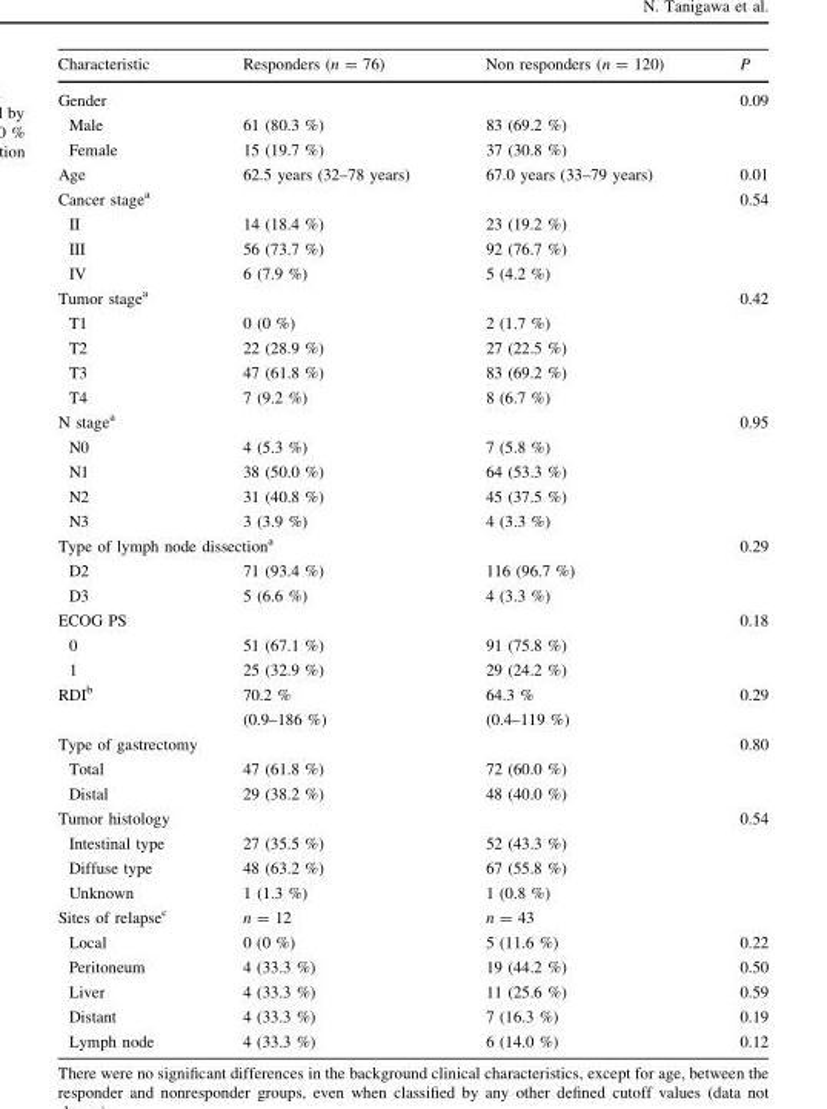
<table><thead><tr><td>Characteristic</td><td>Responders (n = 76)</td><td>Non responders (n = 120)</td><td>P</td></tr></thead><tbody><tr><td colspan="3">Gender</td><td>0.09</td></tr><tr><td>Male</td><td>61 (80.3 %)</td><td>83 (69.2 %)</td><td></td></tr><tr><td>Female</td><td>15 (19.7 %)</td><td>37 (30.8 %)</td><td></td></tr><tr><td>Age</td><td>62.5 years (32–78 years)</td><td>67.0 years (33–79 years)</td><td>0.01</td></tr><tr><td colspan="3">Cancer stage<sup>a</sup></td><td>0.54</td></tr><tr><td>II</td><td>14 (18.4 %)</td><td>23 (19.2 %)</td><td></td></tr><tr><td>III</td><td>56 (73.7 %)</td><td>92 (76.7 %)</td><td></td></tr><tr><td>IV</td><td>6 (7.9 %)</td><td>5 (4.2 %)</td><td></td></tr><tr><td colspan="3">Tumor stage<sup>a</sup></td><td>0.42</td></tr><tr><td>T1</td><td>0 (0 %)</td><td>2 (1.7 %)</td><td></td></tr><tr><td>T2</td><td>22 (28.9 %)</td><td>27 (22.5 %)</td><td></td></tr><tr><td>T3</td><td>47 (61.8 %)</td><td>83 (69.2 %)</td><td></td></tr><tr><td>T4</td><td>7 (9.2 %)</td><td>8 (6.7 %)</td><td></td></tr><tr><td colspan="3">N stage<sup>a</sup></td><td>0.95</td></tr><tr><td>N0</td><td>4 (5.3 %)</td><td>7 (5.8 %)</td><td></td></tr><tr><td>N1</td><td>38 (50.0 %)</td><td>64 (53.3 %)</td><td></td></tr><tr><td>N2</td><td>31 (40.8 %)</td><td>45 (37.5 %)</td><td></td></tr><tr><td>N3</td><td>3 (3.9 %)</td><td>4 (3.3 %)</td><td></td></tr><tr><td colspan="3">Type of lymph node dissection<sup>a</sup></td><td>0.29</td></tr><tr><td>D2</td><td>71 (93.4 %)</td><td>116 (96.7 %)</td><td></td></tr><tr><td>D3</td><td>5 (6.6 %)</td><td>4 (3.3 %)</td><td></td></tr><tr><td>ECOG PS</td><td></td><td></td><td>0.18</td></tr><tr><td>0</td><td>51 (67.1 %)</td><td>91 (75.8 %)</td><td></td></tr><tr><td>1</td><td>25 (32.9 %)</td><td>29 (24.2 %)</td><td></td></tr><tr><td rowspan="2">RDI<sup>b</sup></td><td>70.2 %</td><td>64.3 %</td><td>0.29</td></tr><tr><td>(0.9–186 %)</td><td>(0.4–119 %)</td><td></td></tr><tr><td colspan="3">Type of gastrectomy</td><td>0.80</td></tr><tr><td>Total</td><td>47 (61.8 %)</td><td>72 (60.0 %)</td><td></td></tr><tr><td>Distal</td><td>29 (38.2 %)</td><td>48 (40.0 %)</td><td></td></tr><tr><td colspan="3">Tumor histology</td><td>0.54</td></tr><tr><td>Intestinal type</td><td>27 (35.5 %)</td><td>52 (43.3 %)</td><td></td></tr><tr><td>Diffuse type</td><td>48 (63.2 %)</td><td>67 (55.8 %)</td><td></td></tr><tr><td>Unknown</td><td>1 (1.3 %)</td><td>1 (0.8 %)</td><td></td></tr><tr><td>Sites of relapse<sup>c</sup></td><td>n = 12</td><td>n = 43</td><td></td></tr><tr><td>Local</td><td>0 (0 %)</td><td>5 (11.6 %)</td><td>0.22</td></tr><tr><td>Peritoneum</td><td>4 (33.3 %)</td><td>19 (44.2 %)</td><td>0.50</td></tr><tr><td>Liver</td><td>4 (33.3 %)</td><td>11 (25.6 %)</td><td>0.59</td></tr><tr><td>Distant</td><td>4 (33.3 %)</td><td>7 (16.3 %)</td><td>0.19</td></tr><tr><td>Lymph node</td><td>4 (33.3 %)</td><td>6 (14.0 %)</td><td>0.12</td></tr></tbody></table>